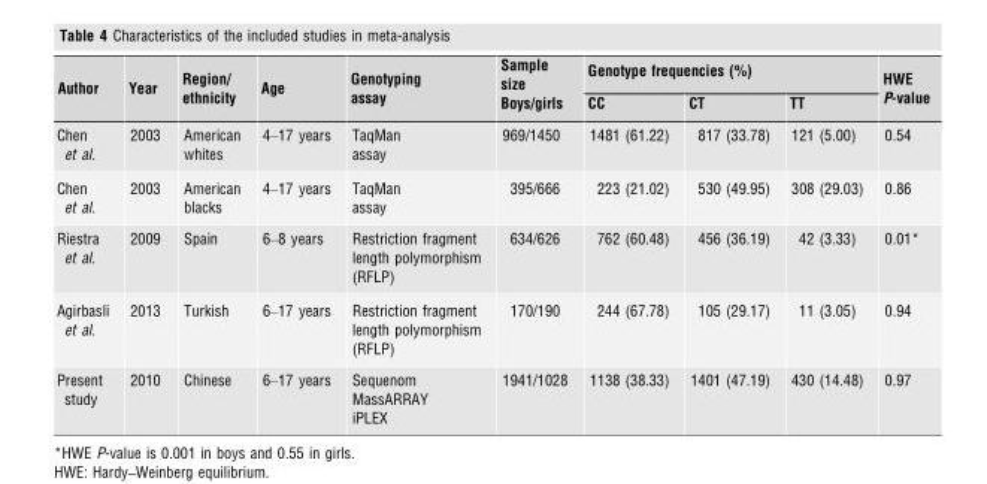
<table><thead><tr><td rowspan="2">Author</td><td rowspan="2">Year</td><td rowspan="2">Region/ ethnicity</td><td rowspan="2">Age</td><td rowspan="2">Genotyping assay</td><td rowspan="2">Sample size Boys/girls</td><td colspan="3">Genotype frequencies (%)</td><td rowspan="2">HWE P-value</td></tr><tr><td>CC</td><td>CT</td><td>TT</td></tr></thead><tbody><tr><td>Chen et al.</td><td>2003</td><td>American whites</td><td>4–17 years</td><td>TaqMan assay</td><td>969/1450</td><td>1481 (61.22)</td><td>817 (33.78)</td><td>121 (5.00)</td><td>0.54</td></tr><tr><td>Chen et al.</td><td>2003</td><td>American blacks</td><td>4–17 years</td><td>TaqMan assay</td><td>395/666</td><td>223 (21.02)</td><td>530 (49.95)</td><td>308 (29.03)</td><td>0.86</td></tr><tr><td>Riestra et al.</td><td>2009</td><td>Spain</td><td>6–8 years</td><td>Restriction fragment length polymorphism (RFLP)</td><td>634/626</td><td>762 (60.48)</td><td>456 (36.19)</td><td>42 (3.33)</td><td>0.01*</td></tr><tr><td>Agirbasli et al.</td><td>2013</td><td>Turkish</td><td>6–17 years</td><td>Restriction fragment length polymorphism (RFLP)</td><td>170/190</td><td>244 (67.78)</td><td>105 (29.17)</td><td>11 (3.05)</td><td>0.94</td></tr><tr><td>Present study</td><td>2010</td><td>Chinese</td><td>6–17 years</td><td>Sequenom MassARRAY iPLEX</td><td>1941/1028</td><td>1138 (38.33)</td><td>1401 (47.19)</td><td>430 (14.48)</td><td>0.97</td></tr></tbody></table>